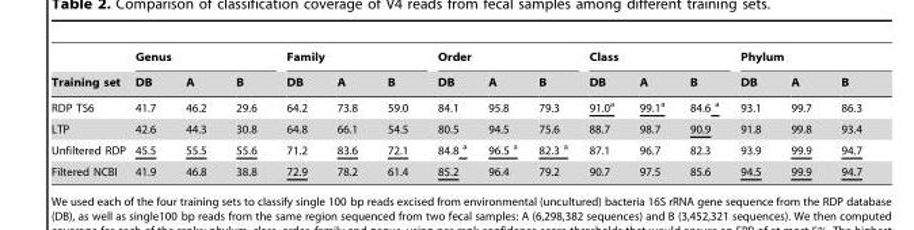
<table><thead><tr><td rowspan="2">Training set</td><td colspan="3">Genus</td><td colspan="3">Family</td><td colspan="3">Order</td><td colspan="3">Class</td><td colspan="3">Phylum</td></tr><tr><td>DB</td><td>A</td><td>B</td><td>DB</td><td>A</td><td>B</td><td>DB</td><td>A</td><td>B</td><td>DB</td><td>A</td><td>B</td><td>DB</td><td>A</td><td>B</td></tr></thead><tbody><tr><td>RDP TS6</td><td>41.7</td><td>46.2</td><td>29.6</td><td>64.2</td><td>73.8</td><td>59.0</td><td>84.1</td><td>95.8</td><td>79.3</td><td>91.0a</td><td>99.1a</td><td>84.6 a</td><td>93.1</td><td>99.7</td><td>86.3</td></tr><tr><td>LTP</td><td>42.6</td><td>44.3</td><td>30.8</td><td>64.8</td><td>66.1</td><td>54.5</td><td>80.5</td><td>94.5</td><td>75.6</td><td>88.7</td><td>98.7</td><td>90.9</td><td>91.8</td><td>99.8</td><td>93.4</td></tr><tr><td>Unfiltered RDP</td><td>45.5</td><td>55.5</td><td>55.6</td><td>71.2</td><td>83.6</td><td>72.1</td><td>84.8 a</td><td>96.5 a</td><td>82.3 a</td><td>87.1</td><td>96.7</td><td>82.3</td><td>93.9</td><td>99.9</td><td>94.7</td></tr><tr><td>Filtered NCBI</td><td>41.9</td><td>46.8</td><td>38.8</td><td>72.9</td><td>78.2</td><td>61.4</td><td>85.2</td><td>96.4</td><td>79.2</td><td>90.7</td><td>97.5</td><td>85.6</td><td>94.5</td><td>99.9</td><td>94.7</td></tr></tbody></table>